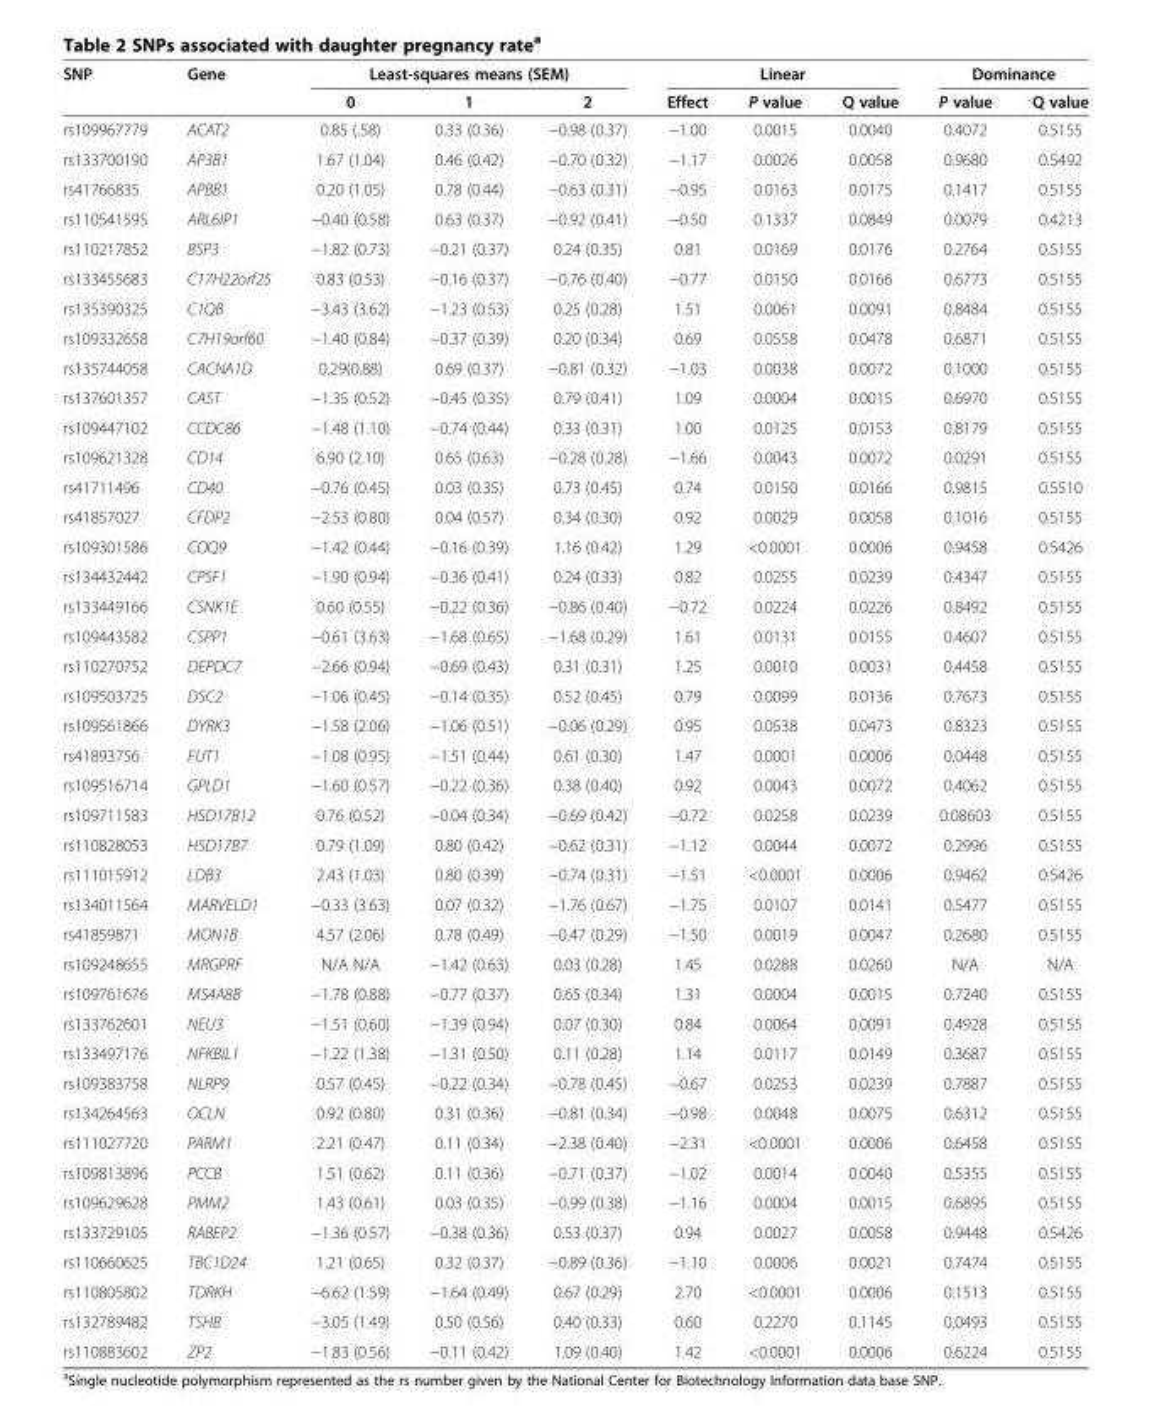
<table><thead><tr><td rowspan="2">SNP</td><td rowspan="2">Gene</td><td colspan="3">Least-squares means (SEM)</td><td colspan="3">Linear</td><td colspan="2">Dominance</td></tr><tr><td>0</td><td>1</td><td>2</td><td>Effect</td><td>P value</td><td>Q value</td><td>P value</td><td>Q value</td></tr></thead><tbody><tr><td>rs109967779</td><td>ACAT2</td><td>0.85 (.58)</td><td>0.33 (0.36)</td><td>−0.98 (0.37)</td><td>−1.00</td><td>0.0015</td><td>0.0040</td><td>0.4072</td><td>0.5155</td></tr><tr><td>rs133700190</td><td>AP3B1</td><td>1.67 (1.04)</td><td>0.46 (0.42)</td><td>−0.70 (0.32)</td><td>−1.17</td><td>0.0026</td><td>0.0058</td><td>0.9680</td><td>0.5492</td></tr><tr><td>rs41766835</td><td>APBB1</td><td>0.20 (1.05)</td><td>0.78 (0.44)</td><td>−0.63 (0.31)</td><td>−0.95</td><td>0.0163</td><td>0.0175</td><td>0.1417</td><td>0.5155</td></tr><tr><td>rs110541595</td><td>ARL6IP1</td><td>−0.40 (0.58)</td><td>0.63 (0.37)</td><td>−0.92 (0.41)</td><td>−0.50</td><td>0.1337</td><td>0.0849</td><td>0.0079</td><td>0.4213</td></tr><tr><td>rs110217852</td><td>BSP3</td><td>−1.82 (0.73)</td><td>−0.21 (0.37)</td><td>0.24 (0.35)</td><td>0.81</td><td>0.0169</td><td>0.0176</td><td>0.2764</td><td>0.5155</td></tr><tr><td>rs133455683</td><td>C17H22orf25</td><td>0.83 (0.53)</td><td>−0.16 (0.37)</td><td>−0.76 (0.40)</td><td>−0.77</td><td>0.0150</td><td>0.0166</td><td>0.6773</td><td>0.5155</td></tr><tr><td>rs135390325</td><td>C1QB</td><td>−3.43 (3.62)</td><td>−1.23 (0.53)</td><td>0.25 (0.28)</td><td>1.51</td><td>0.0061</td><td>0.0091</td><td>0.8484</td><td>0.5155</td></tr><tr><td>rs109332658</td><td>C7H19orf60</td><td>−1.40 (0.84)</td><td>−0.37 (0.39)</td><td>0.20 (0.34)</td><td>0.69</td><td>0.0558</td><td>0.0478</td><td>0.6871</td><td>0.5155</td></tr><tr><td>rs135744058</td><td>CACNA1D</td><td>0.29(0.88)</td><td>0.69 (0.37)</td><td>−0.81 (0.32)</td><td>−1.03</td><td>0.0038</td><td>0.0072</td><td>0.1000</td><td>0.5155</td></tr><tr><td>rs137601357</td><td>CAST</td><td>−1.35 (0.52)</td><td>−0.45 (0.35)</td><td>0.79 (0.41)</td><td>1.09</td><td>0.0004</td><td>0.0015</td><td>0.6970</td><td>0.5155</td></tr><tr><td>rs109447102</td><td>CCDC86</td><td>−1.48 (1.10)</td><td>−0.74 (0.44)</td><td>0.33 (0.31)</td><td>1.00</td><td>0.0125</td><td>0.0153</td><td>0.8179</td><td>0.5155</td></tr><tr><td>rs109621328</td><td>CD14</td><td>6.90 (2.10)</td><td>0.65 (0.63)</td><td>−0.28 (0.28)</td><td>−1.66</td><td>0.0043</td><td>0.0072</td><td>0.0291</td><td>0.5155</td></tr><tr><td>rs41711496</td><td>CD40</td><td>−0.76 (0.45)</td><td>0.03 (0.35)</td><td>0.73 (0.45)</td><td>0.74</td><td>0.0150</td><td>0.0166</td><td>0.9815</td><td>0.5510</td></tr><tr><td>rs41857027</td><td>CFDP2</td><td>−2.53 (0.80)</td><td>0.04 (0.57)</td><td>0.34 (0.30)</td><td>0.92</td><td>0.0029</td><td>0.0058</td><td>0.1016</td><td>0.5155</td></tr><tr><td>rs109301586</td><td>COQ9</td><td>−1.42 (0.44)</td><td>−0.16 (0.39)</td><td>1.16 (0.42)</td><td>1.29</td><td>&lt;0.0001</td><td>0.0006</td><td>0.9458</td><td>0.5426</td></tr><tr><td>rs134432442</td><td>CPSF1</td><td>−1.90 (0.94)</td><td>−0.36 (0.41)</td><td>0.24 (0.33)</td><td>0.82</td><td>0.0255</td><td>0.0239</td><td>0.4347</td><td>0.5155</td></tr><tr><td>rs133449166</td><td>CSNK1E</td><td>0.60 (0.55)</td><td>−0.22 (0.36)</td><td>−0.86 (0.40)</td><td>−0.72</td><td>0.0224</td><td>0.0226</td><td>0.8492</td><td>0.5155</td></tr><tr><td>rs109443582</td><td>CSPP1</td><td>−0.61 (3.63)</td><td>−1.68 (0.65)</td><td>−1.68 (0.29)</td><td>1.61</td><td>0.0131</td><td>0.0155</td><td>0.4607</td><td>0.5155</td></tr><tr><td>rs110270752</td><td>DEPDC7</td><td>−2.66 (0.94)</td><td>−0.69 (0.43)</td><td>0.31 (0.31)</td><td>1.25</td><td>0.0010</td><td>0.0031</td><td>0.4458</td><td>0.5155</td></tr><tr><td>rs109503725</td><td>DSC2</td><td>−1.06 (0.45)</td><td>−0.14 (0.35)</td><td>0.52 (0.45)</td><td>0.79</td><td>0.0099</td><td>0.0136</td><td>0.7673</td><td>0.5155</td></tr><tr><td>rs109561866</td><td>DYRK3</td><td>−1.58 (2.06)</td><td>−1.06 (0.51)</td><td>−0.06 (0.29)</td><td>0.95</td><td>0.0538</td><td>0.0473</td><td>0.8323</td><td>0.5155</td></tr><tr><td>rs41893756</td><td>FUT1</td><td>−1.08 (0.95)</td><td>−1.51 (0.44)</td><td>0.61 (0.30)</td><td>1.47</td><td>0.0001</td><td>0.0006</td><td>0.0448</td><td>0.5155</td></tr><tr><td>rs109516714</td><td>GPLD1</td><td>−1.60 (0.57)</td><td>−0.22 (0.36)</td><td>0.38 (0.40)</td><td>0.92</td><td>0.0043</td><td>0.0072</td><td>0.4062</td><td>0.5155</td></tr><tr><td>rs109711583</td><td>HSD17B12</td><td>0.76 (0.52)</td><td>−0.04 (0.34)</td><td>−0.69 (0.42)</td><td>−0.72</td><td>0.0258</td><td>0.0239</td><td>0.08603</td><td>0.5155</td></tr><tr><td>rs110828053</td><td>HSD17B7</td><td>0.79 (1.09)</td><td>0.80 (0.42)</td><td>−0.62 (0.31)</td><td>−1.12</td><td>0.0044</td><td>0.0072</td><td>0.2996</td><td>0.5155</td></tr><tr><td>rs111015912</td><td>LDB3</td><td>2.43 (1.03)</td><td>0.80 (0.39)</td><td>−0.74 (0.31)</td><td>−1.51</td><td>&lt;0.0001</td><td>0.0006</td><td>0.9462</td><td>0.5426</td></tr><tr><td>rs134011564</td><td>MARVELD1</td><td>−0.33 (3.63)</td><td>0.07 (0.32)</td><td>−1.76 (0.67)</td><td>−1.75</td><td>0.0107</td><td>0.0141</td><td>0.5477</td><td>0.5155</td></tr><tr><td>rs41859871</td><td>MON1B</td><td>4.57 (2.06)</td><td>0.78 (0.49)</td><td>−0.47 (0.29)</td><td>−1.50</td><td>0.0019</td><td>0.0047</td><td>0.2680</td><td>0.5155</td></tr><tr><td>rs109248655</td><td>MRGPRF</td><td>N/A N/A</td><td>−1.42 (0.63)</td><td>0.03 (0.28)</td><td>1.45</td><td>0.0288</td><td>0.0260</td><td>N/A</td><td>N/A</td></tr><tr><td>rs109761676</td><td>MS4A8B</td><td>−1.78 (0.88)</td><td>−0.77 (0.37)</td><td>0.65 (0.34)</td><td>1.31</td><td>0.0004</td><td>0.0015</td><td>0.7240</td><td>0.5155</td></tr><tr><td>rs133762601</td><td>NEU3</td><td>−1.51 (0.60)</td><td>−1.39 (0.94)</td><td>0.07 (0.30)</td><td>0.84</td><td>0.0064</td><td>0.0091</td><td>0.4928</td><td>0.5155</td></tr><tr><td>rs133497176</td><td>NFKBIL1</td><td>−1.22 (1.38)</td><td>−1.31 (0.50)</td><td>0.11 (0.28)</td><td>1.14</td><td>0.0117</td><td>0.0149</td><td>0.3687</td><td>0.5155</td></tr><tr><td>rs109383758</td><td>NLRP9</td><td>0.57 (0.45)</td><td>−0.22 (0.34)</td><td>−0.78 (0.45)</td><td>−0.67</td><td>0.0253</td><td>0.0239</td><td>0.7887</td><td>0.5155</td></tr><tr><td>rs134264563</td><td>OCLN</td><td>0.92 (0.80)</td><td>0.31 (0.36)</td><td>−0.81 (0.34)</td><td>−0.98</td><td>0.0048</td><td>0.0075</td><td>0.6312</td><td>0.5155</td></tr><tr><td>rs111027720</td><td>PARM1</td><td>2.21 (0.47)</td><td>0.11 (0.34)</td><td>−2.38 (0.40)</td><td>−2.31</td><td>&lt;0.0001</td><td>0.0006</td><td>0.6458</td><td>0.5155</td></tr><tr><td>rs109813896</td><td>PCCB</td><td>1.51 (0.62)</td><td>0.11 (0.36)</td><td>−0.71 (0.37)</td><td>−1.02</td><td>0.0014</td><td>0.0040</td><td>0.5355</td><td>0.5155</td></tr><tr><td>rs109629628</td><td>PMM2</td><td>1.43 (0.61)</td><td>0.03 (0.35)</td><td>−0.99 (0.38)</td><td>−1.16</td><td>0.0004</td><td>0.0015</td><td>0.6895</td><td>0.5155</td></tr><tr><td>rs133729105</td><td>RABEP2</td><td>−1.36 (0.57)</td><td>−0.38 (0.36)</td><td>0.53 (0.37)</td><td>0.94</td><td>0.0027</td><td>0.0058</td><td>0.9448</td><td>0.5426</td></tr><tr><td>rs110660625</td><td>TBC1D24</td><td>1.21 (0.65)</td><td>0.32 (0.37)</td><td>−0.89 (0.36)</td><td>−1.10</td><td>0.0006</td><td>0.0021</td><td>0.7474</td><td>0.5155</td></tr><tr><td>rs110805802</td><td>TDRKH</td><td>−6.62 (1.59)</td><td>−1.64 (0.49)</td><td>0.67 (0.29)</td><td>2.70</td><td>&lt;0.0001</td><td>0.0006</td><td>0.1513</td><td>0.5155</td></tr><tr><td>rs132789482</td><td>TSHB</td><td>−3.05 (1.49)</td><td>0.50 (0.56)</td><td>0.40 (0.33)</td><td>0.60</td><td>0.2270</td><td>0.1145</td><td>0.0493</td><td>0.5155</td></tr><tr><td>rs110883602</td><td>ZP2</td><td>−1.83 (0.56)</td><td>−0.11 (0.42)</td><td>1.09 (0.40)</td><td>1.42</td><td>&lt;0.0001</td><td>0.0006</td><td>0.6224</td><td>0.5155</td></tr></tbody></table>